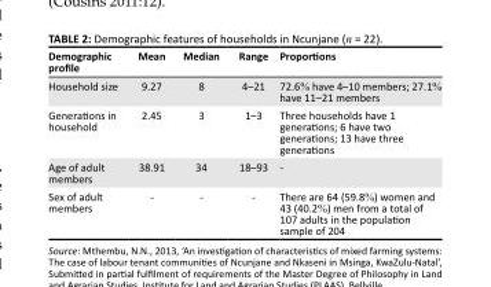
<table><thead><tr><td>Demographic profile</td><td>Mean</td><td>Median</td><td>Range</td><td>Proportions</td></tr></thead><tbody><tr><td>Household size</td><td>9.27</td><td>8</td><td>4–21</td><td>72.6% have 4–10 members; 27.1% have 11–21 members</td></tr><tr><td>Generations in household</td><td>2.45</td><td>3</td><td>1–3</td><td>Three households have 1 generations; 6 have two generations; 13 have three generations</td></tr><tr><td>Age of adult members</td><td>38.91</td><td>34</td><td>18–93</td><td>-</td></tr><tr><td>Sex of adult members</td><td>-</td><td>-</td><td>-</td><td>There are 64 (59.8%) women and 43 (40.2%) men from a total of 107 adults in the population sample of 204</td></tr></tbody></table>